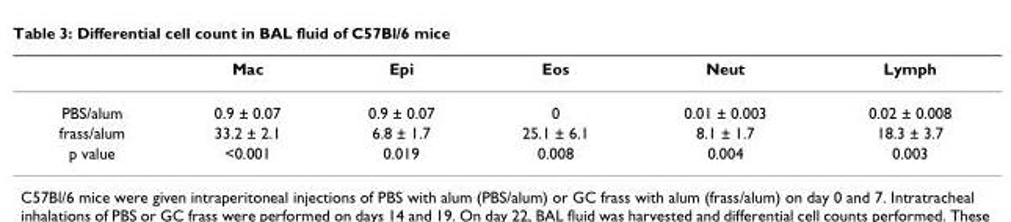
<table><thead><tr><td></td><td>Mac</td><td>Epi</td><td>Eos</td><td>Neut</td><td>Lymph</td></tr></thead><tbody><tr><td>PBS/alum</td><td>0.9 ± 0.07</td><td>0.9 ± 0.07</td><td>0</td><td>0.01 ± 0.003</td><td>0.02 ± 0.008</td></tr><tr><td>frass/alum</td><td>33.2 ± 2.1</td><td>6.8 ± 1.7</td><td>25.1 ± 6.1</td><td>8.1 ± 1.7</td><td>18.3 ± 3.7</td></tr><tr><td>p value</td><td>&lt;0.001</td><td>0.019</td><td>0.008</td><td>0.004</td><td>0.003</td></tr></tbody></table>